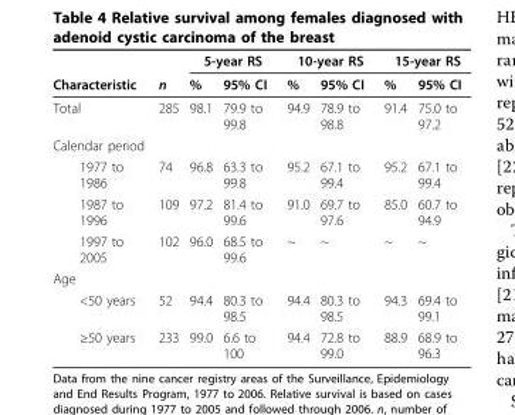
<table><thead><tr><td rowspan="2">Characteristic</td><td rowspan="2">n</td><td colspan="2">5-year RS</td><td colspan="2">10-year RS</td><td colspan="2">15-year RS</td></tr><tr><td>%</td><td>95% CI</td><td>%</td><td>95% CI</td><td>%</td><td>95% CI</td></tr></thead><tbody><tr><td>Total</td><td>285</td><td>98.1</td><td>79.9 to 99.8</td><td>94.9</td><td>78.9 to 98.8</td><td>91.4</td><td>75.0 to 97.2</td></tr><tr><td colspan="8">Calendar period</td></tr><tr><td>1977 to 1986</td><td>74</td><td>96.8</td><td>63.3 to 99.8</td><td>95.2</td><td>67.1 to 99.4</td><td>95.2</td><td>67.1 to 99.4</td></tr><tr><td>1987 to 1996</td><td>109</td><td>97.2</td><td>81.4 to 99.6</td><td>91.0</td><td>69.7 to 97.6</td><td>85.0</td><td>60.7 to 94.9</td></tr><tr><td>1997 to 2005</td><td>102</td><td>96.0</td><td>68.5 to 99.6</td><td>~</td><td>~</td><td>~</td><td>~</td></tr><tr><td colspan="8">Age</td></tr><tr><td>&lt;50 years</td><td>52</td><td>94.4</td><td>80.3 to 98.5</td><td>94.4</td><td>80.3 to 98.5</td><td>94.3</td><td>69.4 to 99.1</td></tr><tr><td>≥50 years</td><td>233</td><td>99.0</td><td>6.6 to 100</td><td>94.4</td><td>72.8 to 99.0</td><td>88.9</td><td>68.9 to 96.3</td></tr></tbody></table>